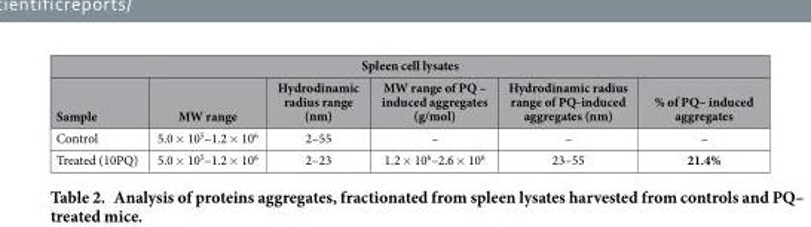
<table><thead><tr><td colspan="6">Spleen cell lysates</td></tr><tr><td>Sample</td><td>MW range</td><td>Hydrodinamic radius range (nm)</td><td>MW range of PQ – induced aggregates (g/mol)</td><td>Hydrodinamic radius range of PQ-induced aggregates (nm)</td><td>% of PQ– induced aggregates</td></tr></thead><tbody><tr><td>Control</td><td>5.0 × 10<sup>5</sup>–1.2 × 10<sup>6</sup></td><td>2–55</td><td>–</td><td>–</td><td>–</td></tr><tr><td>Treated (10PQ)</td><td>5.0 × 10<sup>5</sup>–1.2 × 10<sup>6</sup></td><td>2–23</td><td>1.2 × 10<sup>6</sup>–2.6 × 10<sup>6</sup></td><td>23–55</td><td>21.4%</td></tr></tbody></table>